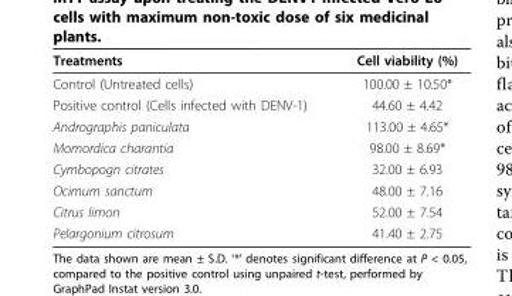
<table><thead><tr><td>Treatments</td><td>Cell viability (%)</td></tr></thead><tbody><tr><td>Control (Untreated cells)</td><td>100.00 ± 10.50*</td></tr><tr><td>Positive control (Cells infected with DENV-1)</td><td>44.60 ± 4.42</td></tr><tr><td>Andrographis paniculata</td><td>113.00 ± 4.65*</td></tr><tr><td>Momordica charantia</td><td>98.00 ± 8.69*</td></tr><tr><td>Cymbopogn citrates</td><td>32.00 ± 6.93</td></tr><tr><td>Ocimum sanctum</td><td>48.00 ± 7.16</td></tr><tr><td>Citrus limon</td><td>52.00 ± 7.54</td></tr><tr><td>Pelargonium citrosum</td><td>41.40 ± 2.75</td></tr></tbody></table>